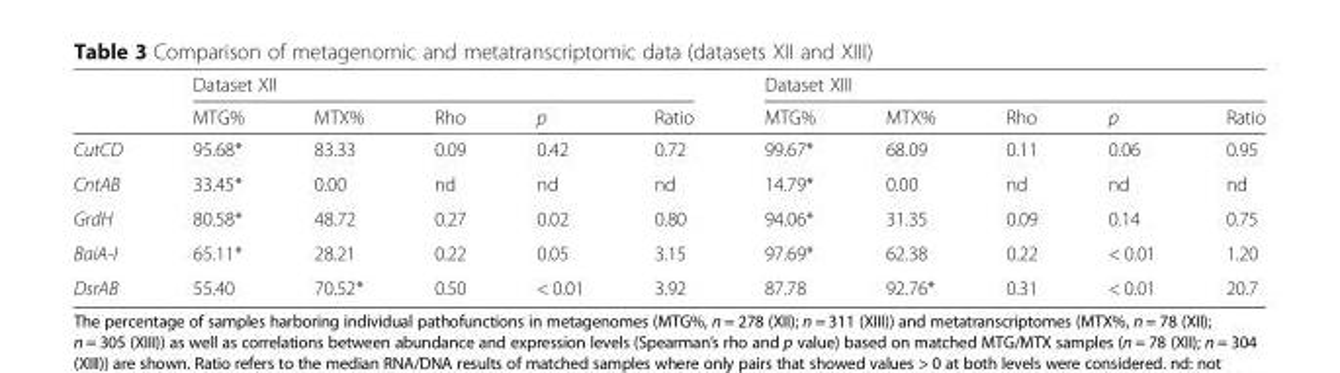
<table><thead><tr><td rowspan="2"></td><td colspan="5">Dataset XII</td><td colspan="5">Dataset XIII</td></tr><tr><td>MTG%</td><td>MTX%</td><td>Rho</td><td>p</td><td>Ratio</td><td>MTG%</td><td>MTX%</td><td>Rho</td><td>p</td><td>Ratio</td></tr></thead><tbody><tr><td>CutCD</td><td>95.68*</td><td>83.33</td><td>0.09</td><td>0.42</td><td>0.72</td><td>99.67*</td><td>68.09</td><td>0.11</td><td>0.06</td><td>0.95</td></tr><tr><td>CntAB</td><td>33.45*</td><td>0.00</td><td>nd</td><td>nd</td><td>nd</td><td>14.79*</td><td>0.00</td><td>nd</td><td>nd</td><td>nd</td></tr><tr><td>GrdH</td><td>80.58*</td><td>48.72</td><td>0.27</td><td>0.02</td><td>0.80</td><td>94.06*</td><td>31.35</td><td>0.09</td><td>0.14</td><td>0.75</td></tr><tr><td>BaiA-I</td><td>65.11*</td><td>28.21</td><td>0.22</td><td>0.05</td><td>3.15</td><td>97.69*</td><td>62.38</td><td>0.22</td><td>&lt; 0.01</td><td>1.20</td></tr><tr><td>DsrAB</td><td>55.40</td><td>70.52*</td><td>0.50</td><td>&lt; 0.01</td><td>3.92</td><td>87.78</td><td>92.76*</td><td>0.31</td><td>&lt; 0.01</td><td>20.7</td></tr></tbody></table>